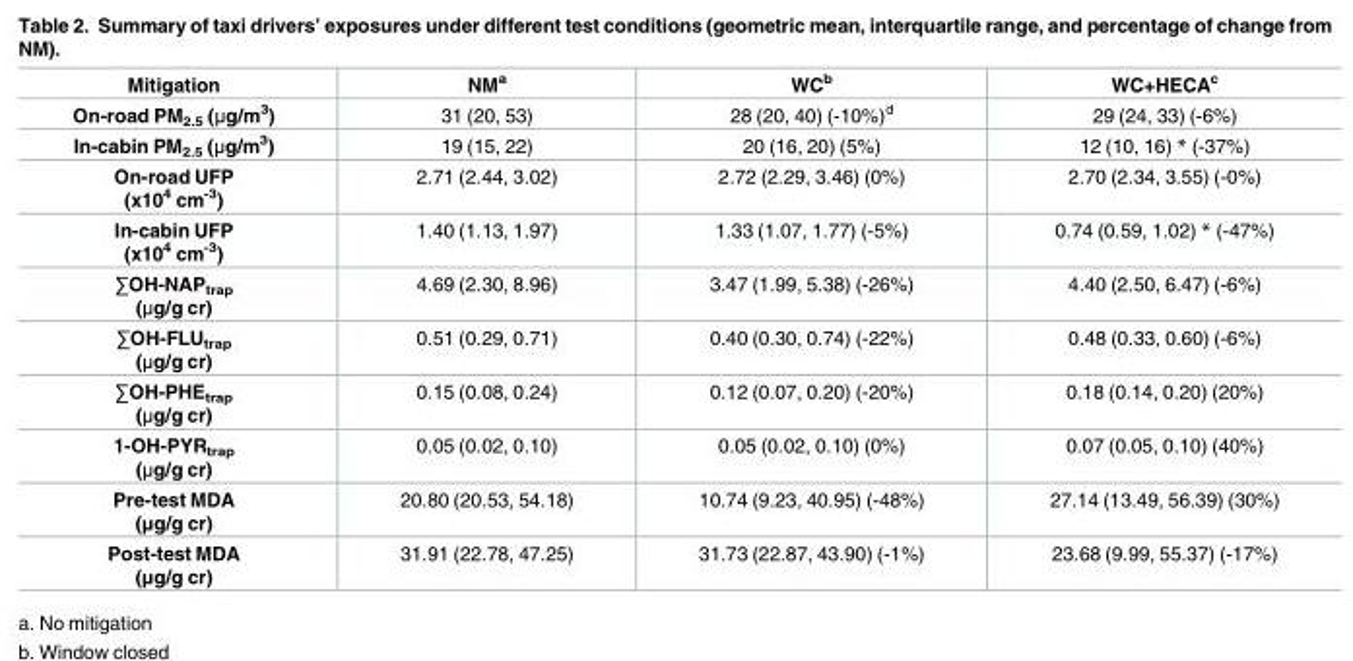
<table><thead><tr><td>Mitigation</td><td>NM<sup>a</sup></td><td>WC<sup>b</sup></td><td>WC+HECA<sup>c</sup></td></tr></thead><tbody><tr><td>On-road PM<sub>2.5</sub> (μg/m<sup>3</sup>)</td><td>31 (20, 53)</td><td>28 (20, 40) (-10%)<sup>d</sup></td><td>29 (24, 33) (-6%)</td></tr><tr><td>In-cabin PM<sub>2.5</sub> (μg/m<sup>3</sup>)</td><td>19 (15, 22)</td><td>20 (16, 20) (5%)</td><td>12 (10, 16) * (-37%)</td></tr><tr><td>On-road UFP (x10<sup>4</sup> cm<sup>-3</sup>)</td><td>2.71 (2.44, 3.02)</td><td>2.72 (2.29, 3.46) (0%)</td><td>2.70 (2.34, 3.55) (-0%)</td></tr><tr><td>In-cabin UFP (x10<sup>4</sup> cm<sup>-3</sup>)</td><td>1.40 (1.13, 1.97)</td><td>1.33 (1.07, 1.77) (-5%)</td><td>0.74 (0.59, 1.02) * (-47%)</td></tr><tr><td>∑OH-NAP<sub>trap</sub> (μg/g cr)</td><td>4.69 (2.30, 8.96)</td><td>3.47 (1.99, 5.38) (-26%)</td><td>4.40 (2.50, 6.47) (-6%)</td></tr><tr><td>∑OH-FLU<sub>trap</sub> (μg/g cr)</td><td>0.51 (0.29, 0.71)</td><td>0.40 (0.30, 0.74) (-22%)</td><td>0.48 (0.33, 0.60) (-6%)</td></tr><tr><td>∑OH-PHE<sub>trap</sub> (μg/g cr)</td><td>0.15 (0.08, 0.24)</td><td>0.12 (0.07, 0.20) (-20%)</td><td>0.18 (0.14, 0.20) (20%)</td></tr><tr><td>1-OH-PYR<sub>trap</sub> (μg/g cr)</td><td>0.05 (0.02, 0.10)</td><td>0.05 (0.02, 0.10) (0%)</td><td>0.07 (0.05, 0.10) (40%)</td></tr><tr><td>Pre-test MDA (μg/g cr)</td><td>20.80 (20.53, 54.18)</td><td>10.74 (9.23, 40.95) (-48%)</td><td>27.14 (13.49, 56.39) (30%)</td></tr><tr><td>Post-test MDA (μg/g cr)</td><td>31.91 (22.78, 47.25)</td><td>31.73 (22.87, 43.90) (-1%)</td><td>23.68 (9.99, 55.37) (-17%)</td></tr></tbody></table>